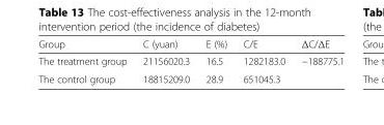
<table><thead><tr><td>Group</td><td>C (yuan)</td><td>E (%)</td><td>C/E</td><td>ΔC/ΔE</td></tr></thead><tbody><tr><td>The treatment group</td><td>21156020.3</td><td>16.5</td><td>1282183.0</td><td>−188775.1</td></tr><tr><td>The control group</td><td>18815209.0</td><td>28.9</td><td>651045.3</td><td></td></tr></tbody></table>